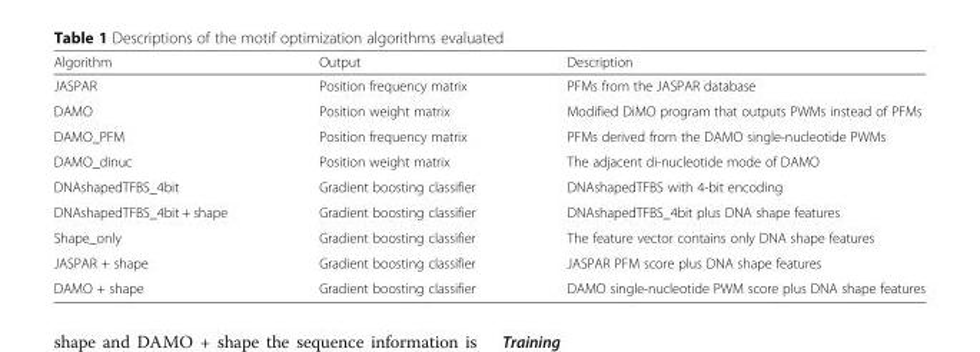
<table><thead><tr><td>Algorithm</td><td>Output</td><td>Description</td></tr></thead><tbody><tr><td>JASPAR</td><td>Position frequency matrix</td><td>PFMs from the JASPAR database</td></tr><tr><td>DAMO</td><td>Position weight matrix</td><td>Modified DiMO program that outputs PWMs instead of PFMs</td></tr><tr><td>DAMO_PFM</td><td>Position frequency matrix</td><td>PFMs derived from the DAMO single-nucleotide PWMs</td></tr><tr><td>DAMO_dinuc</td><td>Position weight matrix</td><td>The adjacent di-nucleotide mode of DAMO</td></tr><tr><td>DNAshapedTFBS_4bit</td><td>Gradient boosting classifier</td><td>DNAshapedTFBS with 4-bit encoding</td></tr><tr><td>DNAshapedTFBS_4bit + shape</td><td>Gradient boosting classifier</td><td>DNAshapedTFBS_4bit plus DNA shape features</td></tr><tr><td>Shape_only</td><td>Gradient boosting classifier</td><td>The feature vector contains only DNA shape features</td></tr><tr><td>JASPAR + shape</td><td>Gradient boosting classifier</td><td>JASPAR PFM score plus DNA shape features</td></tr><tr><td>DAMO + shape</td><td>Gradient boosting classifier</td><td>DAMO single-nucleotide PWM score plus DNA shape features</td></tr></tbody></table>